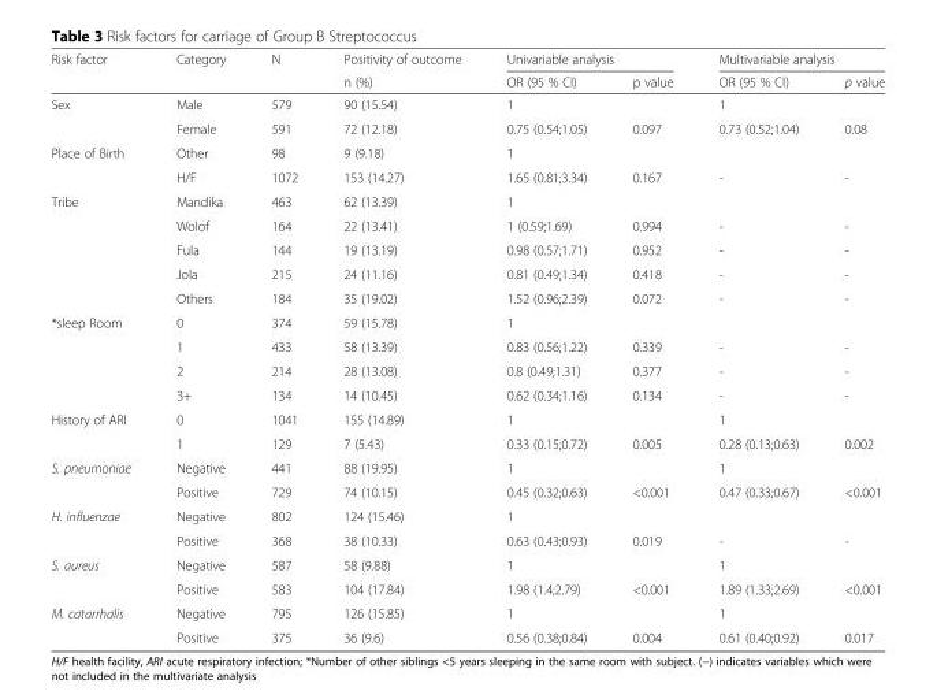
<table><thead><tr><td rowspan="2">Risk factor</td><td rowspan="2">Category</td><td rowspan="2">N</td><td rowspan="2">Positivity of outcome n (%)</td><td colspan="2">Univariable analysis</td><td colspan="2">Multivariable analysis</td></tr><tr><td>OR (95 % CI)</td><td>p value</td><td>OR (95 % CI)</td><td>p value</td></tr></thead><tbody><tr><td rowspan="2">Sex</td><td>Male</td><td>579</td><td>90 (15.54)</td><td>1</td><td></td><td>1</td><td></td></tr><tr><td>Female</td><td>591</td><td>72 (12.18)</td><td>0.75 (0.54;1.05)</td><td>0.097</td><td>0.73 (0.52;1.04)</td><td>0.08</td></tr><tr><td rowspan="2">Place of Birth</td><td>Other</td><td>98</td><td>9 (9.18)</td><td>1</td><td></td><td></td><td></td></tr><tr><td>H/F</td><td>1072</td><td>153 (14.27)</td><td>1.65 (0.81;3.34)</td><td>0.167</td><td>-</td><td>-</td></tr><tr><td rowspan="5">Tribe</td><td>Mandika</td><td>463</td><td>62 (13.39)</td><td>1</td><td></td><td></td><td></td></tr><tr><td>Wolof</td><td>164</td><td>22 (13.41)</td><td>1 (0.59;1.69)</td><td>0.994</td><td>-</td><td>-</td></tr><tr><td>Fula</td><td>144</td><td>19 (13.19)</td><td>0.98 (0.57;1.71)</td><td>0.952</td><td>-</td><td>-</td></tr><tr><td>Jola</td><td>215</td><td>24 (11.16)</td><td>0.81 (0.49;1.34)</td><td>0.418</td><td>-</td><td>-</td></tr><tr><td>Others</td><td>184</td><td>35 (19.02)</td><td>1.52 (0.96;2.39)</td><td>0.072</td><td>-</td><td>-</td></tr><tr><td rowspan="4">*sleep Room</td><td>0</td><td>374</td><td>59 (15.78)</td><td>1</td><td></td><td></td><td></td></tr><tr><td>1</td><td>433</td><td>58 (13.39)</td><td>0.83 (0.56;1.22)</td><td>0.339</td><td>-</td><td>-</td></tr><tr><td>2</td><td>214</td><td>28 (13.08)</td><td>0.8 (0.49;1.31)</td><td>0.377</td><td>-</td><td>-</td></tr><tr><td>3+</td><td>134</td><td>14 (10.45)</td><td>0.62 (0.34;1.16)</td><td>0.134</td><td>-</td><td>-</td></tr><tr><td rowspan="2">History of ARI</td><td>0</td><td>1041</td><td>155 (14.89)</td><td>1</td><td></td><td>1</td><td></td></tr><tr><td>1</td><td>129</td><td>7 (5.43)</td><td>0.33 (0.15;0.72)</td><td>0.005</td><td>0.28 (0.13;0.63)</td><td>0.002</td></tr><tr><td rowspan="2">S. pneumoniae</td><td>Negative</td><td>441</td><td>88 (19.95)</td><td>1</td><td></td><td>1</td><td></td></tr><tr><td>Positive</td><td>729</td><td>74 (10.15)</td><td>0.45 (0.32;0.63)</td><td>&lt;0.001</td><td>0.47 (0.33;0.67)</td><td>&lt;0.001</td></tr><tr><td rowspan="2">H. influenzae</td><td>Negative</td><td>802</td><td>124 (15.46)</td><td>1</td><td></td><td></td><td></td></tr><tr><td>Positive</td><td>368</td><td>38 (10.33)</td><td>0.63 (0.43;0.93)</td><td>0.019</td><td>-</td><td>-</td></tr><tr><td rowspan="2">S. aureus</td><td>Negative</td><td>587</td><td>58 (9.88)</td><td>1</td><td></td><td>1</td><td></td></tr><tr><td>Positive</td><td>583</td><td>104 (17.84)</td><td>1.98 (1.4;2.79)</td><td>&lt;0.001</td><td>1.89 (1.33;2.69)</td><td>&lt;0.001</td></tr><tr><td rowspan="2">M. catarrhalis</td><td>Negative</td><td>795</td><td>126 (15.85)</td><td>1</td><td></td><td>1</td><td></td></tr><tr><td>Positive</td><td>375</td><td>36 (9.6)</td><td>0.56 (0.38;0.84)</td><td>0.004</td><td>0.61 (0.40;0.92)</td><td>0.017</td></tr></tbody></table>